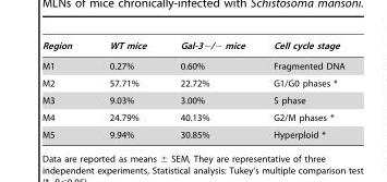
<table><thead><tr><td>Region</td><td>WT mice</td><td>Gal-3−/− mice</td><td>Cell cycle stage</td></tr></thead><tbody><tr><td>M1</td><td>0.27%</td><td>0.60%</td><td>Fragmented DNA</td></tr><tr><td>M2</td><td>57.71%</td><td>22.72%</td><td>G1/G0 phases *</td></tr><tr><td>M3</td><td>9.03%</td><td>3.00%</td><td>S phase</td></tr><tr><td>M4</td><td>24.79%</td><td>40.13%</td><td>G2/M phases *</td></tr><tr><td>M5</td><td>9.94%</td><td>30.85%</td><td>Hyperploid *</td></tr></tbody></table>